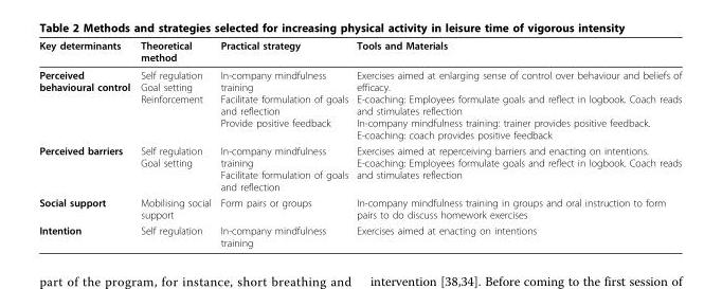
<table><thead><tr><td>Key determinants</td><td>Theoretical method</td><td>Practical strategy</td><td>Tools and Materials</td></tr></thead><tbody><tr><td>Perceived behavioural control</td><td>Self regulation Goal setting Reinforcement</td><td>In-company mindfulness training Facilitate formulation of goals and reflection Provide positive feedback</td><td>Exercises aimed at enlarging sense of control over behaviour and beliefs of efficacy. E-coaching: Employees formulate goals and reflect in logbook. Coach reads and stimulates reflection In-company mindfulness training: trainer provides positive feedback. E-coaching: coach provides positive feedback</td></tr><tr><td>Perceived barriers</td><td>Self regulation Goal setting</td><td>In-company mindfulness training Facilitate formulation of goals and reflection</td><td>Exercises aimed at reperceiving barriers and enacting on intentions. E-coaching: Employees formulate goals and reflect in logbook. Coach reads and stimulates reflection</td></tr><tr><td>Social support</td><td>Mobilising social support</td><td>Form pairs or groups</td><td>In-company mindfulness training in groups and oral instruction to form pairs to do discuss homework exercises</td></tr><tr><td>Intention</td><td>Self regulation</td><td>In-company mindfulness training</td><td>Exercises aimed at enacting on intentions</td></tr></tbody></table>